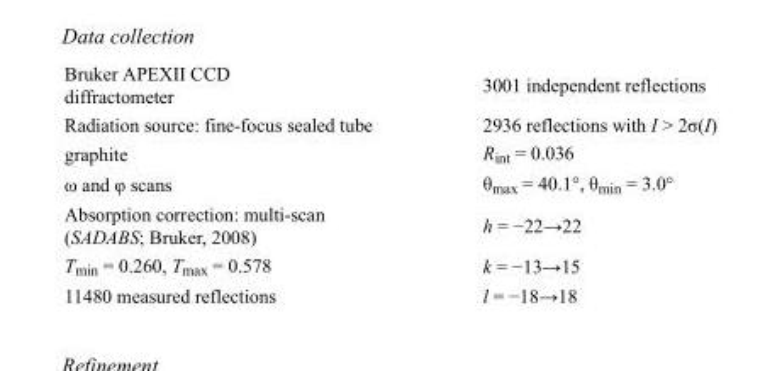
<table><tbody><tr><td>Bruker APEXII CCD diffractometer</td><td>3001 independent reflections</td></tr><tr><td>Radiation source: fine-focus sealed tube</td><td>2936 reflections with I &gt; 2σ(I)</td></tr><tr><td>graphite</td><td>R<sub>int</sub> = 0.036</td></tr><tr><td>ω and φ scans</td><td>θ<sub>max</sub> = 40.1°, θ<sub>min</sub> = 3.0°</td></tr><tr><td>Absorption correction: multi-scan (SADABS; Bruker, 2008)</td><td>h = −22→22</td></tr><tr><td>T<sub>min</sub> = 0.260, T<sub>max</sub> = 0.578</td><td>k = −13→15</td></tr><tr><td>11480 measured reflections</td><td>l = −18→18</td></tr></tbody></table>